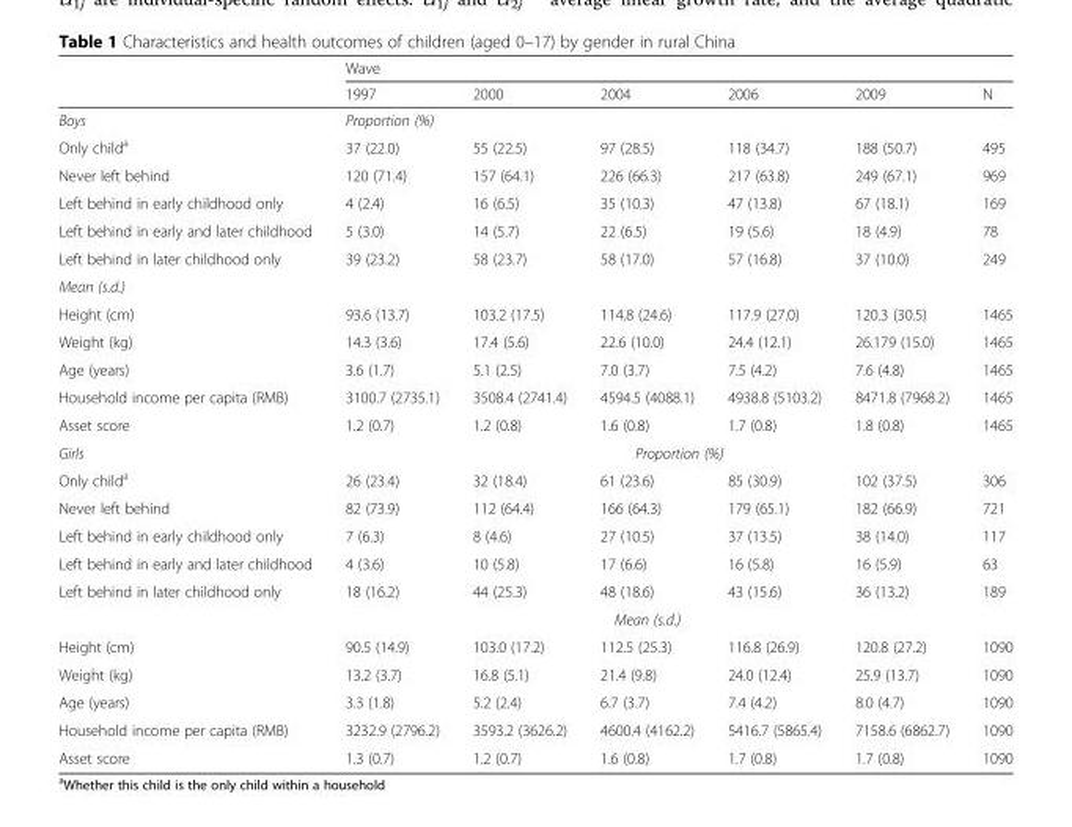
<table><thead><tr><td rowspan="2"></td><td colspan="6">Wave</td></tr><tr><td>1997</td><td>2000</td><td>2004</td><td>2006</td><td>2009</td><td>N</td></tr></thead><tbody><tr><td>Boys</td><td colspan="6">Proportion (%)</td></tr><tr><td>Only child<sup>a</sup></td><td>37 (22.0)</td><td>55 (22.5)</td><td>97 (28.5)</td><td>118 (34.7)</td><td>188 (50.7)</td><td>495</td></tr><tr><td>Never left behind</td><td>120 (71.4)</td><td>157 (64.1)</td><td>226 (66.3)</td><td>217 (63.8)</td><td>249 (67.1)</td><td>969</td></tr><tr><td>Left behind in early childhood only</td><td>4 (2.4)</td><td>16 (6.5)</td><td>35 (10.3)</td><td>47 (13.8)</td><td>67 (18.1)</td><td>169</td></tr><tr><td>Left behind in early and later childhood</td><td>5 (3.0)</td><td>14 (5.7)</td><td>22 (6.5)</td><td>19 (5.6)</td><td>18 (4.9)</td><td>78</td></tr><tr><td>Left behind in later childhood only</td><td>39 (23.2)</td><td>58 (23.7)</td><td>58 (17.0)</td><td>57 (16.8)</td><td>37 (10.0)</td><td>249</td></tr><tr><td colspan="7">Mean (s.d.)</td></tr><tr><td>Height (cm)</td><td>93.6 (13.7)</td><td>103.2 (17.5)</td><td>114.8 (24.6)</td><td>117.9 (27.0)</td><td>120.3 (30.5)</td><td>1465</td></tr><tr><td>Weight (kg)</td><td>14.3 (3.6)</td><td>17.4 (5.6)</td><td>22.6 (10.0)</td><td>24.4 (12.1)</td><td>26.179 (15.0)</td><td>1465</td></tr><tr><td>Age (years)</td><td>3.6 (1.7)</td><td>5.1 (2.5)</td><td>7.0 (3.7)</td><td>7.5 (4.2)</td><td>7.6 (4.8)</td><td>1465</td></tr><tr><td>Household income per capita (RMB)</td><td>3100.7 (2735.1)</td><td>3508.4 (2741.4)</td><td>4594.5 (4088.1)</td><td>4938.8 (5103.2)</td><td>8471.8 (7968.2)</td><td>1465</td></tr><tr><td>Asset score</td><td>1.2 (0.7)</td><td>1.2 (0.8)</td><td>1.6 (0.8)</td><td>1.7 (0.8)</td><td>1.8 (0.8)</td><td>1465</td></tr><tr><td>Girls</td><td colspan="6">Proportion (%)</td></tr><tr><td>Only child<sup>a</sup></td><td>26 (23.4)</td><td>32 (18.4)</td><td>61 (23.6)</td><td>85 (30.9)</td><td>102 (37.5)</td><td>306</td></tr><tr><td>Never left behind</td><td>82 (73.9)</td><td>112 (64.4)</td><td>166 (64.3)</td><td>179 (65.1)</td><td>182 (66.9)</td><td>721</td></tr><tr><td>Left behind in early childhood only</td><td>7 (6.3)</td><td>8 (4.6)</td><td>27 (10.5)</td><td>37 (13.5)</td><td>38 (14.0)</td><td>117</td></tr><tr><td>Left behind in early and later childhood</td><td>4 (3.6)</td><td>10 (5.8)</td><td>17 (6.6)</td><td>16 (5.8)</td><td>16 (5.9)</td><td>63</td></tr><tr><td rowspan="2">Left behind in later childhood only</td><td>18 (16.2)</td><td>44 (25.3)</td><td>48 (18.6)</td><td>43 (15.6)</td><td>36 (13.2)</td><td>189</td></tr><tr><td colspan="5">Mean (s.d.)</td><td></td></tr><tr><td>Height (cm)</td><td>90.5 (14.9)</td><td>103.0 (17.2)</td><td>112.5 (25.3)</td><td>116.8 (26.9)</td><td>120.8 (27.2)</td><td>1090</td></tr><tr><td>Weight (kg)</td><td>13.2 (3.7)</td><td>16.8 (5.1)</td><td>21.4 (9.8)</td><td>24.0 (12.4)</td><td>25.9 (13.7)</td><td>1090</td></tr><tr><td>Age (years)</td><td>3.3 (1.8)</td><td>5.2 (2.4)</td><td>6.7 (3.7)</td><td>7.4 (4.2)</td><td>8.0 (4.7)</td><td>1090</td></tr><tr><td>Household income per capita (RMB)</td><td>3232.9 (2796.2)</td><td>3593.2 (3626.2)</td><td>4600.4 (4162.2)</td><td>5416.7 (5865.4)</td><td>7158.6 (6862.7)</td><td>1090</td></tr><tr><td>Asset score</td><td>1.3 (0.7)</td><td>1.2 (0.7)</td><td>1.6 (0.8)</td><td>1.7 (0.8)</td><td>1.7 (0.8)</td><td>1090</td></tr></tbody></table>